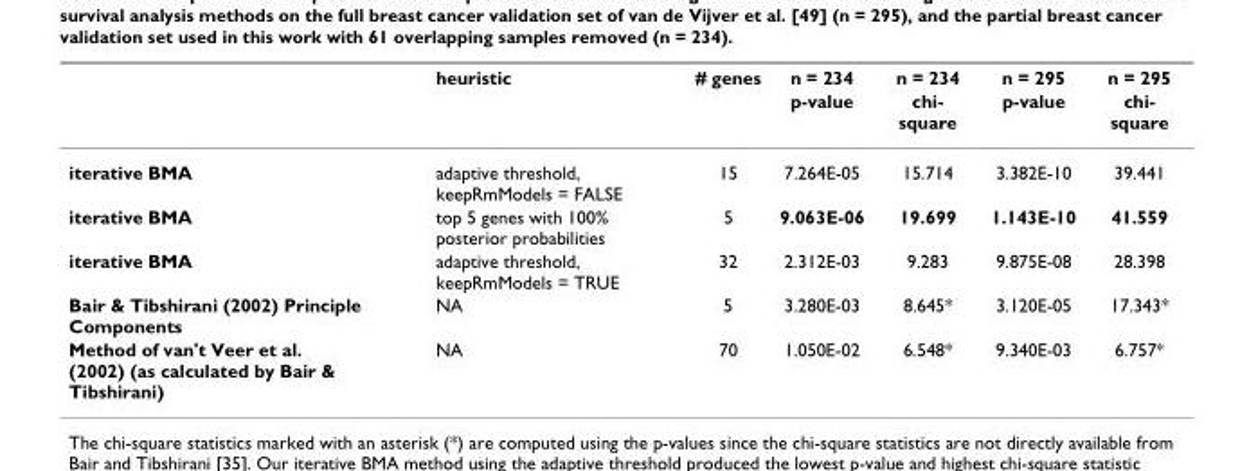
<table><thead><tr><td rowspan="2"></td><td rowspan="2">heuristic</td><td rowspan="2"># genes</td><td rowspan="2">n = 234 p-value</td><td rowspan="2">n = 234 chi- square</td><td rowspan="2">n = 295 p-value</td><td rowspan="2">n = 295 chi- square</td></tr><tr></tr></thead><tbody><tr><td>iterative BMA</td><td>adaptive threshold, keepRmModels = FALSE</td><td>15</td><td>7.264E-05</td><td>15.714</td><td>3.382E-10</td><td>39.441</td></tr><tr><td>iterative BMA</td><td>top 5 genes with 100% posterior probabilities</td><td>5</td><td>9.063E-06</td><td>19.699</td><td>1.143E-10</td><td>41.559</td></tr><tr><td>iterative BMA</td><td>adaptive threshold, keepRmModels = TRUE</td><td>32</td><td>2.312E-03</td><td>9.283</td><td>9.875E-08</td><td>28.398</td></tr><tr><td>Bair &amp; Tibshirani (2002) Principle Components</td><td>NA</td><td>5</td><td>3.280E-03</td><td>8.645*</td><td>3.120E-05</td><td>17.343*</td></tr><tr><td>Method of van&#x27;t Veer et al. (2002) (as calculated by Bair &amp; Tibshirani)</td><td>NA</td><td>70</td><td>1.050E-02</td><td>6.548*</td><td>9.340E-03</td><td>6.757*</td></tr></tbody></table>